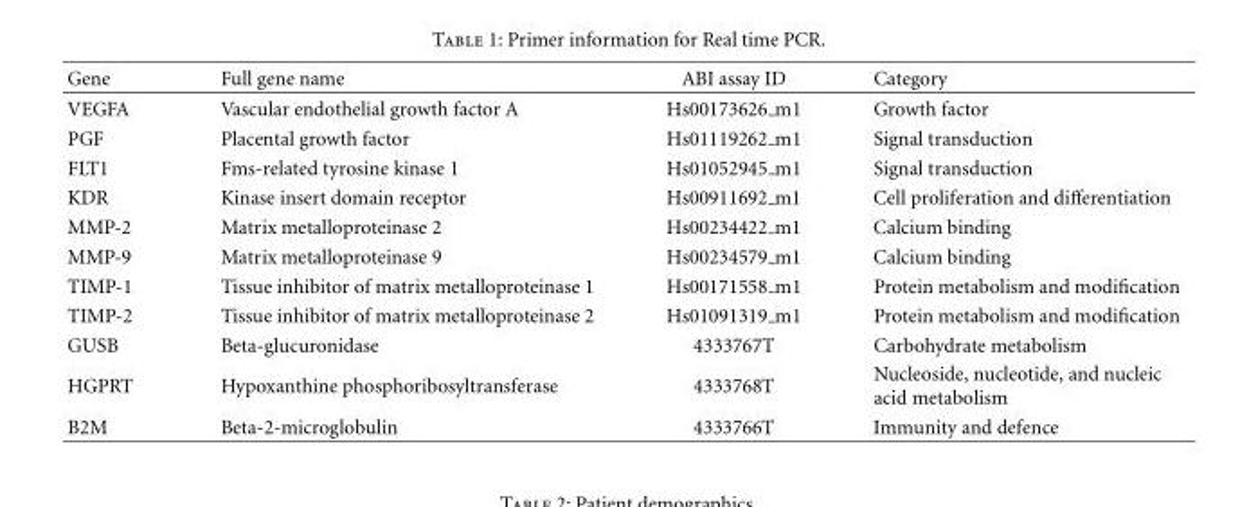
<table><thead><tr><td>Gene</td><td>Full gene name</td><td>ABI assay ID</td><td>Category</td></tr></thead><tbody><tr><td>VEGFA</td><td>Vascular endothelial growth factor A</td><td>Hs00173626 m1</td><td>Growth factor</td></tr><tr><td>PGF</td><td>Placental growth factor</td><td>Hs01119262 m1</td><td>Signal transduction</td></tr><tr><td>FLT1</td><td>Fms-related tyrosine kinase 1</td><td>Hs01052945 m1</td><td>Signal transduction</td></tr><tr><td>KDR</td><td>Kinase insert domain receptor</td><td>Hs00911692 m1</td><td>Cell proliferation and differentiation</td></tr><tr><td>MMP-2</td><td>Matrix metalloproteinase 2</td><td>Hs00234422 m1</td><td>Calcium binding</td></tr><tr><td>MMP-9</td><td>Matrix metalloproteinase 9</td><td>Hs00234579 m1</td><td>Calcium binding</td></tr><tr><td>TIMP-1</td><td>Tissue inhibitor of matrix metalloproteinase 1</td><td>Hs00171558 m1</td><td>Protein metabolism and modification</td></tr><tr><td>TIMP-2</td><td>Tissue inhibitor of matrix metalloproteinase 2</td><td>Hs01091319 m1</td><td>Protein metabolism and modification</td></tr><tr><td>GUSB</td><td>Beta-glucuronidase</td><td>4333767T</td><td>Carbohydrate metabolism</td></tr><tr><td>HGPRT</td><td>Hypoxanthine phosphoribosyltransferase</td><td>4333768T</td><td>Nucleoside, nucleotide, and nucleic acid metabolism</td></tr><tr><td>B2M</td><td>Beta-2-microglobulin</td><td>4333766T</td><td>Immunity and defence</td></tr></tbody></table>